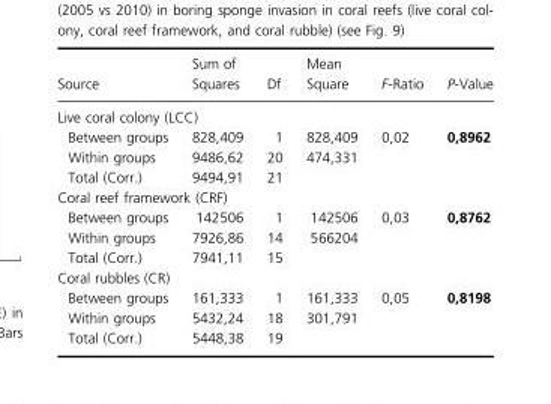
<table><thead><tr><td>Source</td><td>Sum of Squares</td><td>Df</td><td>Mean Square</td><td>F-Ratio</td><td>P-Value</td></tr></thead><tbody><tr><td colspan="6">Live coral colony (LCC)</td></tr><tr><td>Between groups</td><td>828,409</td><td>1</td><td>828,409</td><td>0,02</td><td>0,8962</td></tr><tr><td>Within groups</td><td>9486,62</td><td>20</td><td>474,331</td><td></td><td></td></tr><tr><td>Total (Corr.)</td><td>9494,91</td><td>21</td><td></td><td></td><td></td></tr><tr><td colspan="6">Coral reef framework (CRF)</td></tr><tr><td>Between groups</td><td>142506</td><td>1</td><td>142506</td><td>0,03</td><td>0,8762</td></tr><tr><td>Within groups</td><td>7926,86</td><td>14</td><td>566204</td><td></td><td></td></tr><tr><td>Total (Corr.)</td><td>7941,11</td><td>15</td><td></td><td></td><td></td></tr><tr><td colspan="6">Coral rubbles (CR)</td></tr><tr><td>Between groups</td><td>161,333</td><td>1</td><td>161,333</td><td>0,05</td><td>0,8198</td></tr><tr><td>Within groups</td><td>5432,24</td><td>18</td><td>301,791</td><td></td><td></td></tr><tr><td>Total (Corr.)</td><td>5448,38</td><td>19</td><td></td><td></td><td></td></tr></tbody></table>